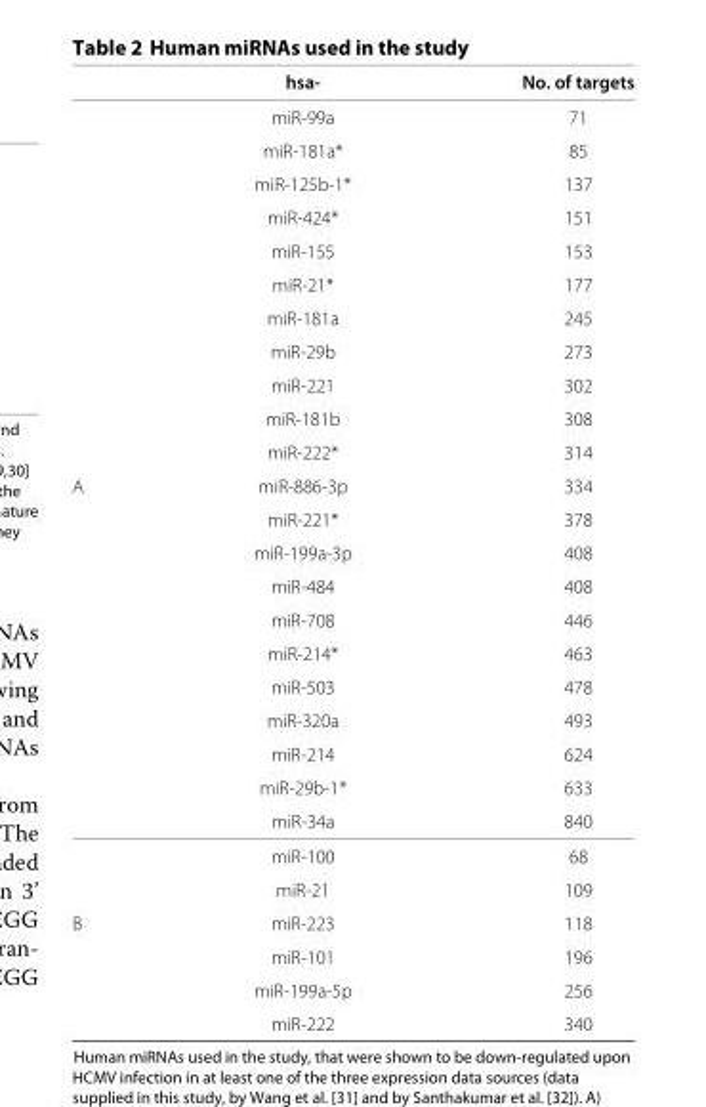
<table><thead><tr><td></td><td>hsa-</td><td>No. of targets</td></tr></thead><tbody><tr><td></td><td>miR-99a</td><td>71</td></tr><tr><td></td><td>miR-181a*</td><td>85</td></tr><tr><td></td><td>miR-125b-1*</td><td>137</td></tr><tr><td></td><td>miR-424*</td><td>151</td></tr><tr><td></td><td>miR-155</td><td>153</td></tr><tr><td></td><td>miR-21*</td><td>177</td></tr><tr><td></td><td>miR-181a</td><td>245</td></tr><tr><td></td><td>miR-29b</td><td>273</td></tr><tr><td></td><td>miR-221</td><td>302</td></tr><tr><td></td><td>miR-181b</td><td>308</td></tr><tr><td></td><td>miR-222*</td><td>314</td></tr><tr><td rowspan="13">A</td><td>miR-886-3p</td><td>334</td></tr><tr><td>miR-221*</td><td>378</td></tr><tr><td>miR-199a-3p</td><td>408</td></tr><tr><td>miR-484</td><td>408</td></tr><tr><td>miR-708</td><td>446</td></tr><tr><td>miR-214*</td><td>463</td></tr><tr><td>miR-503</td><td>478</td></tr><tr><td>miR-320a</td><td>493</td></tr><tr><td>miR-214</td><td>624</td></tr><tr><td>miR-29b-1*</td><td>633</td></tr><tr><td>miR-34a</td><td>840</td></tr><tr><td>miR-100</td><td>68</td></tr><tr><td>miR-21</td><td>109</td></tr><tr><td rowspan="4">B</td><td>miR-223</td><td>118</td></tr><tr><td>miR-101</td><td>196</td></tr><tr><td>miR-199a-5p</td><td>256</td></tr><tr><td>miR-222</td><td>340</td></tr></tbody></table>